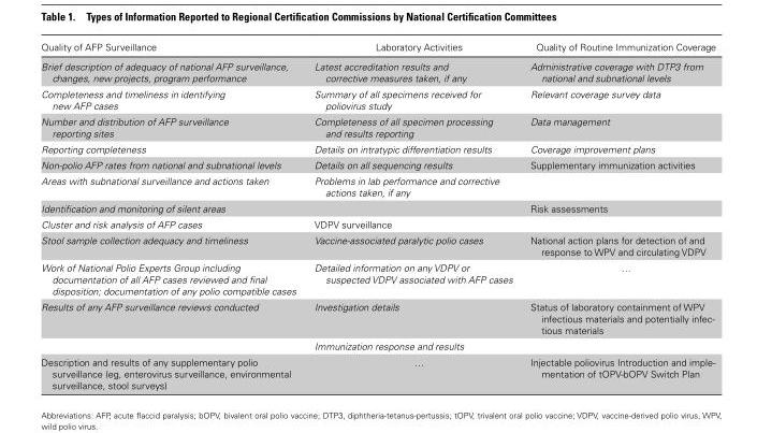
<table><thead><tr><td>Quality of AFP Surveillance</td><td>Laboratory Activities</td><td>Quality of Routine Immunization Coverage</td></tr></thead><tbody><tr><td>Brief description of adequacy of national AFP surveillance, changes, new projects, program performance</td><td>Latest accreditation results and corrective measures taken, if any</td><td>Administrative coverage with DTP3 from national and subnational levels</td></tr><tr><td>Completeness and timeliness in identifying new AFP cases</td><td>Summary of all specimens received for poliovirus study</td><td>Relevant coverage survey data</td></tr><tr><td>Number and distribution of AFP surveillance reporting sites</td><td>Completeness of all specimen processing and results reporting</td><td>Data management</td></tr><tr><td>Reporting completeness</td><td>Details on intratypic differentiation results</td><td>Coverage improvement plans</td></tr><tr><td>Non-polio AFP rates from national and subnational levels</td><td>Details on all sequencing results</td><td>Supplementary immunization activities</td></tr><tr><td>Areas with subnational surveillance and actions taken</td><td>Problems in lab performance and corrective actions taken, if any</td><td></td></tr><tr><td>Identification and monitoring of silent areas</td><td></td><td>Risk assessments</td></tr><tr><td>Cluster and risk analysis of AFP cases</td><td>VDPV surveillance</td><td></td></tr><tr><td>Stool sample collection adequacy and timeliness</td><td>Vaccine-associated paralytic polio cases</td><td>National action plans for detection of and response to WPV and circulating VDPV</td></tr><tr><td>Work of National Polio Experts Group including documentation of all AFP cases reviewed and final disposition; documentation of any polio compatible cases</td><td>Detailed information on any VDPV or suspected VDPV associated with AFP cases</td><td>…</td></tr><tr><td rowspan="2">Results of any AFP surveillance reviews conducted</td><td>Investigation details</td><td>Status of laboratory containment of WPV infectious materials and potentially infec- tious materials</td></tr><tr><td>Immunization response and results</td><td></td></tr><tr><td>Description and results of any supplementary polio surveillance (eg, enterovirus surveillance, environmental surveillance, stool surveys)</td><td>…</td><td>Injectable poliovirus Introduction and imple- mentation of tOPV-bOPV Switch Plan</td></tr></tbody></table>